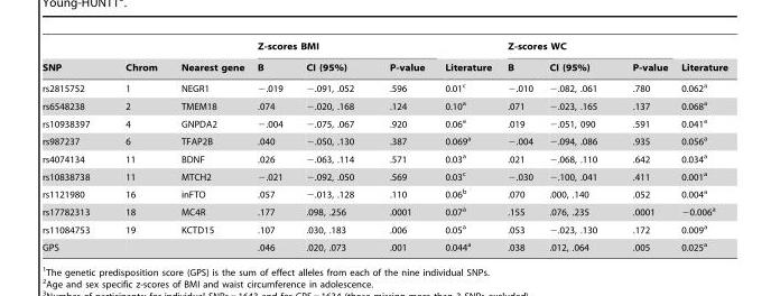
<table><thead><tr><td rowspan="2">SNP</td><td rowspan="2">Chrom</td><td rowspan="2">Nearest gene</td><td colspan="3">Z-scores BMI</td><td rowspan="2">Literature</td><td colspan="3">Z-scores WC</td><td rowspan="2">Literature</td></tr><tr><td>B</td><td>CI (95%)</td><td>P-value</td><td>B</td><td>CI (95%)</td><td>P-value</td></tr></thead><tbody><tr><td>rs2815752</td><td>1</td><td>NEGR1</td><td>−.019</td><td>−.091, .052</td><td>.596</td><td>0.01<sup>c</sup></td><td>−.010</td><td>−.082, .061</td><td>.780</td><td>0.062<sup>a</sup></td></tr><tr><td>rs6548238</td><td>2</td><td>TMEM18</td><td>.074</td><td>−.020, .168</td><td>.124</td><td>0.10<sup>a</sup></td><td>.071</td><td>−.023, .165</td><td>.137</td><td>0.068<sup>a</sup></td></tr><tr><td>rs10938397</td><td>4</td><td>GNPDA2</td><td>−.004</td><td>−.075, .067</td><td>.920</td><td>0.06<sup>a</sup></td><td>.019</td><td>−.051, 090</td><td>.591</td><td>0.041<sup>a</sup></td></tr><tr><td>rs987237</td><td>6</td><td>TFAP2B</td><td>.040</td><td>−.050, .130</td><td>.387</td><td>0.069<sup>a</sup></td><td>−.004</td><td>−.094, .086</td><td>.935</td><td>0.056<sup>a</sup></td></tr><tr><td>rs4074134</td><td>11</td><td>BDNF</td><td>.026</td><td>−.063, .114</td><td>.571</td><td>0.03<sup>a</sup></td><td>.021</td><td>−.068, .110</td><td>.642</td><td>0.034<sup>a</sup></td></tr><tr><td>rs10838738</td><td>11</td><td>MTCH2</td><td>−.021</td><td>−.092, .050</td><td>.569</td><td>0.03<sup>c</sup></td><td>−.030</td><td>−.100, .041</td><td>.411</td><td>0.001<sup>a</sup></td></tr><tr><td>rs1121980</td><td>16</td><td>inFTO</td><td>.057</td><td>−.013, .128</td><td>.110</td><td>0.06<sup>b</sup></td><td>.070</td><td>.000, .140</td><td>.052</td><td>0.004<sup>a</sup></td></tr><tr><td>rs17782313</td><td>18</td><td>MC4R</td><td>.177</td><td>.098, .256</td><td>.0001</td><td>0.07<sup>a</sup></td><td>.155</td><td>.076, .235</td><td>.0001</td><td>−0.006<sup>a</sup></td></tr><tr><td>rs11084753</td><td>19</td><td>KCTD15</td><td>.107</td><td>.030, .183</td><td>.006</td><td>0.05<sup>a</sup></td><td>.053</td><td>−.023, .130</td><td>.172</td><td>0.009<sup>a</sup></td></tr><tr><td>GPS</td><td></td><td></td><td>.046</td><td>.020, .073</td><td>.001</td><td>0.044<sup>a</sup></td><td>.038</td><td>.012, .064</td><td>.005</td><td>0.025<sup>a</sup></td></tr></tbody></table>